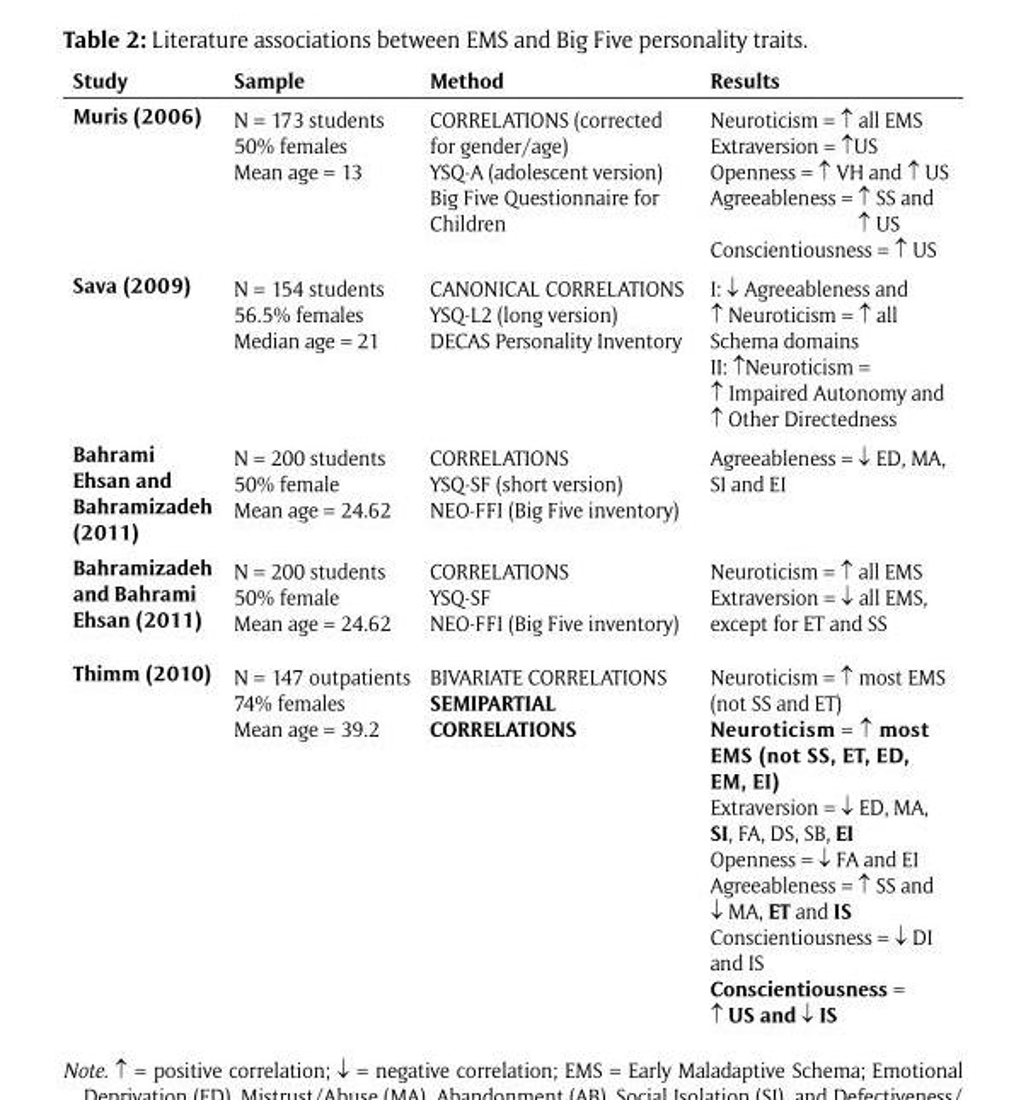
<table><thead><tr><td>Study</td><td>Sample</td><td>Method</td><td>Results</td></tr></thead><tbody><tr><td>Muris (2006)</td><td>N = 173 students 50% females Mean age = 13</td><td>CORRELATIONS (corrected for gender/age) YSQ-A (adolescent version) Big Five Questionnaire for Children</td><td>Neuroticism = ↑ all EMS Extraversion = ↑US Openness = ↑ VH and ↑ US Agreeableness = ↑ SS and ↑ US Conscientiousness = ↑ US</td></tr><tr><td>Sava (2009)</td><td>N = 154 students 56.5% females Median age = 21</td><td>CANONICAL CORRELATIONS YSQ-L2 (long version) DECAS Personality Inventory</td><td>I: ↓ Agreeableness and ↑ Neuroticism = ↑ all Schema domains II: ↑Neuroticism = ↑ Impaired Autonomy and ↑ Other Directedness</td></tr><tr><td>Bahrami Ehsan and Bahramizadeh (2011)</td><td>N = 200 students 50% female Mean age = 24.62</td><td>CORRELATIONS YSQ-SF (short version) NEO-FFI (Big Five inventory)</td><td>Agreeableness = ↓ ED, MA, SI and EI</td></tr><tr><td>Bahramizadeh and Bahrami Ehsan (2011)</td><td>N = 200 students 50% female Mean age = 24.62</td><td>CORRELATIONS YSQ-SF NEO-FFI (Big Five inventory)</td><td>Neuroticism = ↑ all EMS Extraversion = ↓ all EMS, except for ET and SS</td></tr><tr><td>Thimm (2010)</td><td>N = 147 outpatients 74% females Mean age = 39.2</td><td>BIVARIATE CORRELATIONS SEMIPARTIAL CORRELATIONS</td><td>Neuroticism = ↑ most EMS (not SS and ET) Neuroticism = ↑ most EMS (not SS, ET, ED, EM, EI) Extraversion = ↓ ED, MA, SI, FA, DS, SB, EI Openness = ↓ FA and EI Agreeableness = ↑ SS and ↓ MA, ET and IS Conscientiousness = ↓ DI and IS Conscientiousness = ↑ US and ↓ IS</td></tr></tbody></table>